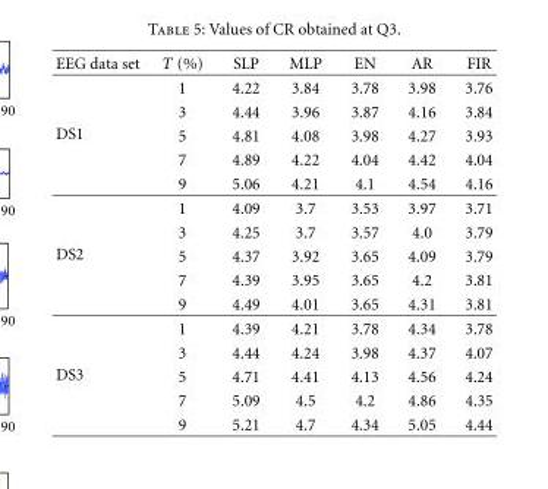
<table><thead><tr><td>EEG data set</td><td>T (%)</td><td>SLP</td><td>MLP</td><td>EN</td><td>AR</td><td>FIR</td></tr></thead><tbody><tr><td rowspan="5">DS1</td><td>1</td><td>4.22</td><td>3.84</td><td>3.78</td><td>3.98</td><td>3.76</td></tr><tr><td>3</td><td>4.44</td><td>3.96</td><td>3.87</td><td>4.16</td><td>3.84</td></tr><tr><td>5</td><td>4.81</td><td>4.08</td><td>3.98</td><td>4.27</td><td>3.93</td></tr><tr><td>7</td><td>4.89</td><td>4.22</td><td>4.04</td><td>4.42</td><td>4.04</td></tr><tr><td>9</td><td>5.06</td><td>4.21</td><td>4.1</td><td>4.54</td><td>4.16</td></tr><tr><td rowspan="5">DS2</td><td>1</td><td>4.09</td><td>3.7</td><td>3.53</td><td>3.97</td><td>3.71</td></tr><tr><td>3</td><td>4.25</td><td>3.7</td><td>3.57</td><td>4.0</td><td>3.79</td></tr><tr><td>5</td><td>4.37</td><td>3.92</td><td>3.65</td><td>4.09</td><td>3.79</td></tr><tr><td>7</td><td>4.39</td><td>3.95</td><td>3.65</td><td>4.2</td><td>3.81</td></tr><tr><td>9</td><td>4.49</td><td>4.01</td><td>3.65</td><td>4.31</td><td>3.81</td></tr><tr><td rowspan="5">DS3</td><td>1</td><td>4.39</td><td>4.21</td><td>3.78</td><td>4.34</td><td>3.78</td></tr><tr><td>3</td><td>4.44</td><td>4.24</td><td>3.98</td><td>4.37</td><td>4.07</td></tr><tr><td>5</td><td>4.71</td><td>4.41</td><td>4.13</td><td>4.56</td><td>4.24</td></tr><tr><td>7</td><td>5.09</td><td>4.5</td><td>4.2</td><td>4.86</td><td>4.35</td></tr><tr><td>9</td><td>5.21</td><td>4.7</td><td>4.34</td><td>5.05</td><td>4.44</td></tr></tbody></table>